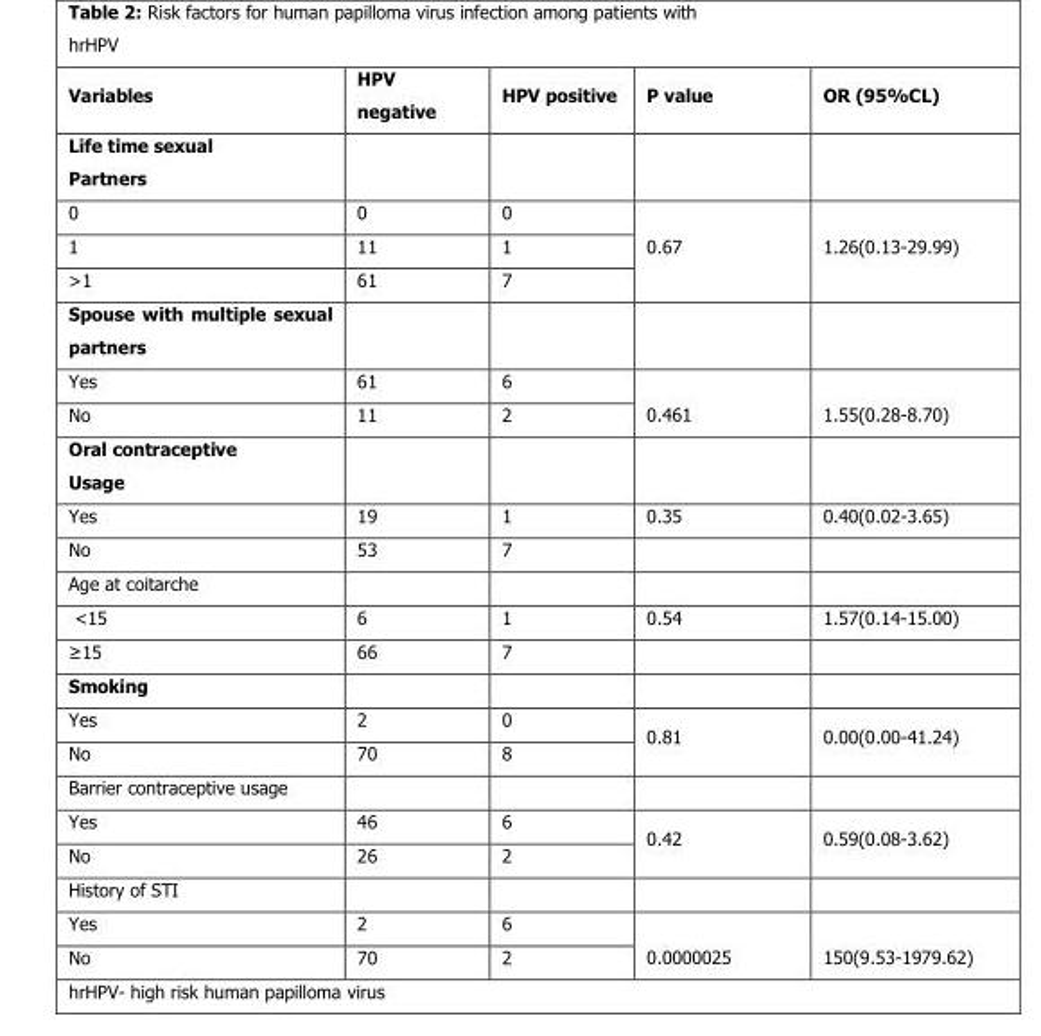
<table><thead><tr><td>Variables</td><td>HPV negative</td><td>HPV positive</td><td>P value</td><td>OR (95%CL)</td></tr></thead><tbody><tr><td colspan="5">Life time sexual Partners</td></tr><tr><td>0</td><td>0</td><td>0</td><td rowspan="3">0.67</td><td rowspan="3">1.26(0.13-29.99)</td></tr><tr><td>1</td><td>11</td><td>1</td></tr><tr><td>&gt;1</td><td>61</td><td>7</td></tr><tr><td colspan="5">Spouse with multiple sexual partners</td></tr><tr><td>Yes</td><td>61</td><td>6</td><td rowspan="2">0.461</td><td rowspan="2">1.55(0.28-8.70)</td></tr><tr><td>No</td><td>11</td><td>2</td></tr><tr><td colspan="5">Oral contraceptive Usage</td></tr><tr><td>Yes</td><td>19</td><td>1</td><td>0.35</td><td>0.40(0.02-3.65)</td></tr><tr><td>No</td><td>53</td><td>7</td><td></td><td></td></tr><tr><td colspan="5">Age at coitarche</td></tr><tr><td>&lt;15</td><td>6</td><td>1</td><td>0.54</td><td>1.57(0.14-15.00)</td></tr><tr><td>≥15</td><td>66</td><td>7</td><td></td><td></td></tr><tr><td colspan="5">Smoking</td></tr><tr><td>Yes</td><td>2</td><td>0</td><td rowspan="2">0.81</td><td rowspan="2">0.00(0.00-41.24)</td></tr><tr><td>No</td><td>70</td><td>8</td></tr><tr><td colspan="5">Barrier contraceptive usage</td></tr><tr><td>Yes</td><td>46</td><td>6</td><td rowspan="2">0.42</td><td rowspan="2">0.59(0.08-3.62)</td></tr><tr><td>No</td><td>26</td><td>2</td></tr><tr><td colspan="5">History of STI</td></tr><tr><td>Yes</td><td>2</td><td>6</td><td rowspan="2">0.0000025</td><td rowspan="2">150(9.53-1979.62)</td></tr><tr><td>No</td><td>70</td><td>2</td></tr></tbody></table>